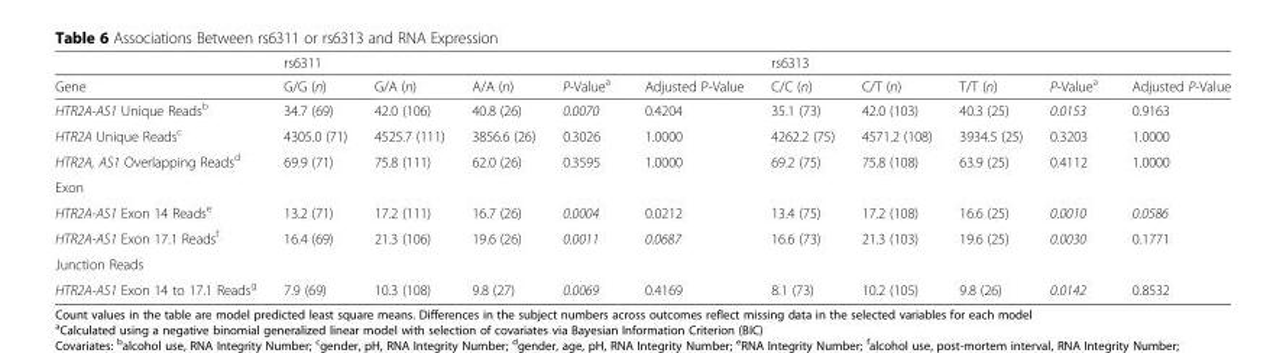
<table><thead><tr><td rowspan="2">Gene</td><td colspan="5">rs6311</td><td colspan="5">rs6313</td></tr><tr><td>G/G (n)</td><td>G/A (n)</td><td>A/A (n)</td><td>P-Value<sup>a</sup></td><td>Adjusted P-Value</td><td>C/C (n)</td><td>C/T (n)</td><td>T/T (n)</td><td>P-Value<sup>a</sup></td><td>Adjusted P-Value</td></tr></thead><tbody><tr><td>HTR2A-AS1 Unique Reads<sup>b</sup></td><td>34.7 (69)</td><td>42.0 (106)</td><td>40.8 (26)</td><td>0.0070</td><td>0.4204</td><td>35.1 (73)</td><td>42.0 (103)</td><td>40.3 (25)</td><td>0.0153</td><td>0.9163</td></tr><tr><td>HTR2A Unique Reads<sup>c</sup></td><td>4305.0 (71)</td><td>4525.7 (111)</td><td>3856.6 (26)</td><td>0.3026</td><td>1.0000</td><td>4262.2 (75)</td><td>4571.2 (108)</td><td>3934.5 (25)</td><td>0.3203</td><td>1.0000</td></tr><tr><td>HTR2A, AS1 Overlapping Reads<sup>d</sup></td><td>69.9 (71)</td><td>75.8 (111)</td><td>62.0 (26)</td><td>0.3595</td><td>1.0000</td><td>69.2 (75)</td><td>75.8 (108)</td><td>63.9 (25)</td><td>0.4112</td><td>1.0000</td></tr><tr><td colspan="11">Exon</td></tr><tr><td>HTR2A-AS1 Exon 14 Reads<sup>e</sup></td><td>13.2 (71)</td><td>17.2 (111)</td><td>16.7 (26)</td><td>0.0004</td><td>0.0212</td><td>13.4 (75)</td><td>17.2 (108)</td><td>16.6 (25)</td><td>0.0010</td><td>0.0586</td></tr><tr><td>HTR2A-AS1 Exon 17.1 Reads<sup>f</sup></td><td>16.4 (69)</td><td>21.3 (106)</td><td>19.6 (26)</td><td>0.0011</td><td>0.0687</td><td>16.6 (73)</td><td>21.3 (103)</td><td>19.6 (25)</td><td>0.0030</td><td>0.1771</td></tr><tr><td colspan="11">Junction Reads</td></tr><tr><td>HTR2A-AS1 Exon 14 to 17.1 Reads<sup>g</sup></td><td>7.9 (69)</td><td>10.3 (108)</td><td>9.8 (27)</td><td>0.0069</td><td>0.4169</td><td>8.1 (73)</td><td>10.2 (105)</td><td>9.8 (26)</td><td>0.0142</td><td>0.8532</td></tr></tbody></table>